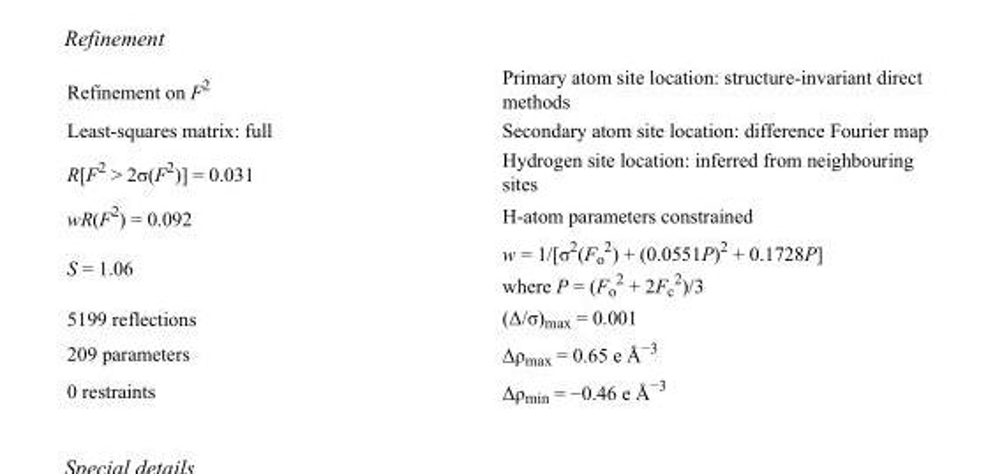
<table><tbody><tr><td>Refinement on F<sup>2</sup></td><td>Primary atom site location: structure-invariant direct methods</td></tr><tr><td>Least-squares matrix: full</td><td>Secondary atom site location: difference Fourier map</td></tr><tr><td>R[F<sup>2</sup> &gt; 2σ(F<sup>2</sup>)] = 0.031</td><td>Hydrogen site location: inferred from neighbouring sites</td></tr><tr><td>wR(F<sup>2</sup>) = 0.092</td><td>H-atom parameters constrained</td></tr><tr><td>S = 1.06</td><td>w = 1/[σ<sup>2</sup>(F<sub>o</sub> <sup>2</sup>) + (0.0551P)<sup>2</sup> + 0.1728P] where P = (F<sub>o</sub> <sup>2</sup> + 2F<sub>c</sub> <sup>2</sup>)/3</td></tr><tr><td>5199 reflections</td><td>(Δ/σ)<sub>max</sub> = 0.001</td></tr><tr><td>209 parameters</td><td>Δρ<sub>max</sub> = 0.65 e Å<sup>−3</sup></td></tr><tr><td>0 restraints</td><td>Δρ<sub>min</sub> = −0.46 e Å<sup>−3</sup></td></tr></tbody></table>